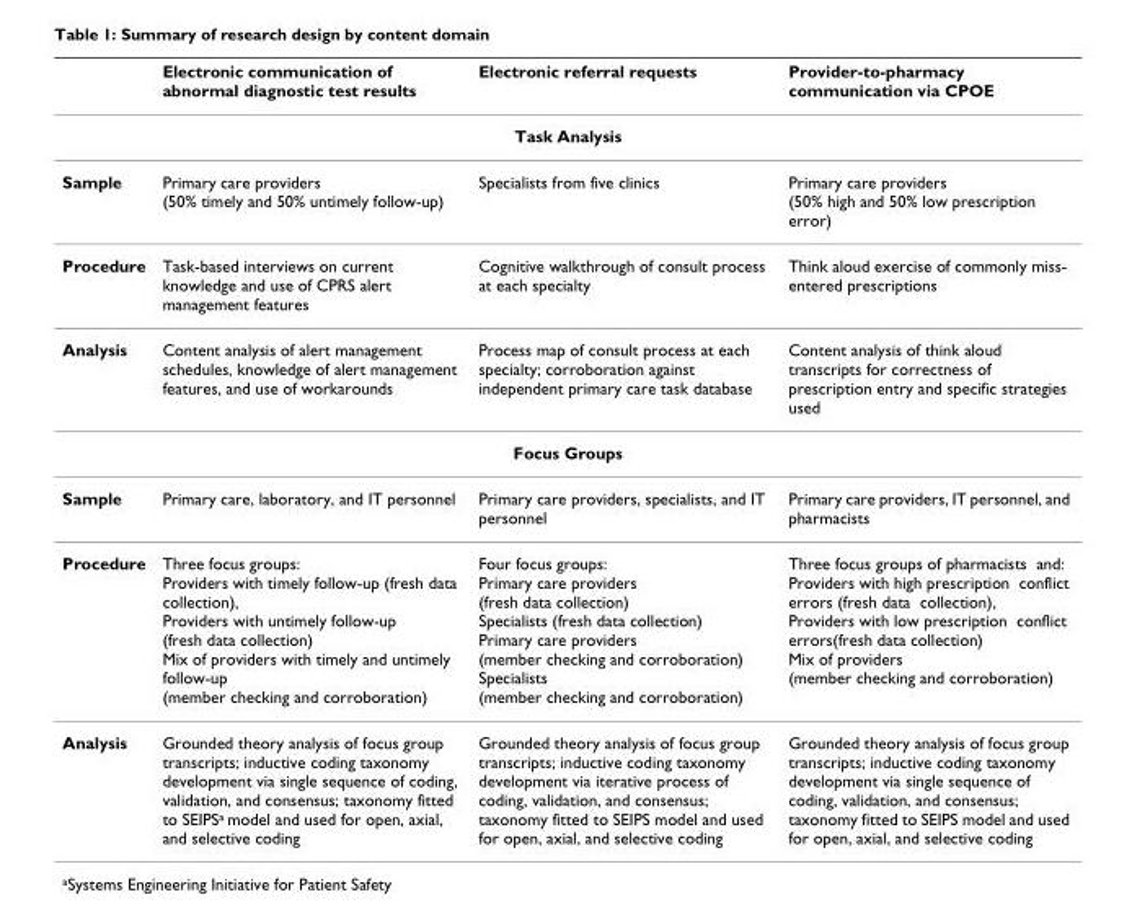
<table><thead><tr><td></td><td>Electronic communication of abnormal diagnostic test results</td><td>Electronic referral requests</td><td>Provider-to-pharmacy communication via CPOE</td></tr></thead><tbody><tr><td colspan="4">Task Analysis</td></tr><tr><td>Sample</td><td>Primary care providers (50% timely and 50% untimely follow-up)</td><td>Specialists from five clinics</td><td>Primary care providers (50% high and 50% low prescription error)</td></tr><tr><td>Procedure</td><td>Task-based interviews on current knowledge and use of CPRS alert management features</td><td>Cognitive walkthrough of consult process at each specialty</td><td>Think aloud exercise of commonly miss- entered prescriptions</td></tr><tr><td>Analysis</td><td>Content analysis of alert management schedules, knowledge of alert management features, and use of workarounds</td><td>Process map of consult process at each specialty; corroboration against independent primary care task database</td><td>Content analysis of think aloud transcripts for correctness of prescription entry and specific strategies used</td></tr><tr><td colspan="4">Focus Groups</td></tr><tr><td>Sample</td><td>Primary care, laboratory, and IT personnel</td><td>Primary care providers, specialists, and IT personnel</td><td>Primary care providers, IT personnel, and pharmacists</td></tr><tr><td>Procedure</td><td>Three focus groups: Providers with timely follow-up (fresh data collection), Providers with untimely follow-up (fresh data collection) Mix of providers with timely and untimely follow-up (member checking and corroboration)</td><td>Four focus groups: Primary care providers (fresh data collection) Specialists (fresh data collection) Primary care providers (member checking and corroboration) Specialists (member checking and corroboration)</td><td>Three focus groups of pharmacists and: Providers with high prescription conflict errors (fresh data collection), Providers with low prescription conflict errors(fresh data collection) Mix of providers (member checking and corroboration)</td></tr><tr><td>Analysis</td><td>Grounded theory analysis of focus group transcripts; inductive coding taxonomy development via single sequence of coding, validation, and consensus; taxonomy fitted to SEIPS<sup>a</sup> model and used for open, axial, and selective coding</td><td>Grounded theory analysis of focus group transcripts; inductive coding taxonomy development via iterative process of coding, validation, and consensus; taxonomy fitted to SEIPS model and used for open, axial, and selective coding</td><td>Grounded theory analysis of focus group transcripts; inductive coding taxonomy development via single sequence of coding, validation, and consensus; taxonomy fitted to SEIPS model and used for open, axial, and selective coding</td></tr></tbody></table>